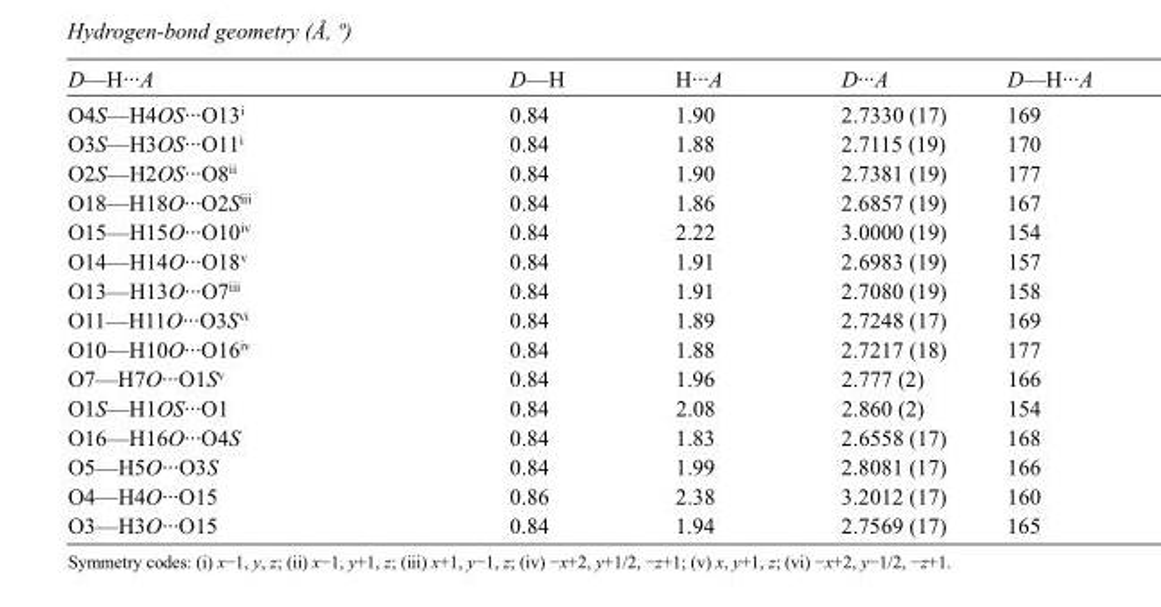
<table><tbody><tr><td>D—H···A</td><td>D—H</td><td>H···A</td><td>D···A</td><td>D—H···A</td></tr><tr><td>O4S—H4OS···O13<sup>i</sup></td><td>0.84</td><td>1.90</td><td>2.7330 (17)</td><td>169</td></tr><tr><td>O3S—H3OS···O11<sup>i</sup></td><td>0.84</td><td>1.88</td><td>2.7115 (19)</td><td>170</td></tr><tr><td>O2S—H2OS···O8<sup>ii</sup></td><td>0.84</td><td>1.90</td><td>2.7381 (19)</td><td>177</td></tr><tr><td>O18—H18O···O2S<sup>iii</sup></td><td>0.84</td><td>1.86</td><td>2.6857 (19)</td><td>167</td></tr><tr><td>O15—H15O···O10<sup>iv</sup></td><td>0.84</td><td>2.22</td><td>3.0000 (19)</td><td>154</td></tr><tr><td>O14—H14O···O18<sup>v</sup></td><td>0.84</td><td>1.91</td><td>2.6983 (19)</td><td>157</td></tr><tr><td>O13—H13O···O7<sup>iii</sup></td><td>0.84</td><td>1.91</td><td>2.7080 (19)</td><td>158</td></tr><tr><td>O11—H11O···O3S<sup>vi</sup></td><td>0.84</td><td>1.89</td><td>2.7248 (17)</td><td>169</td></tr><tr><td>O10—H10O···O16<sup>iv</sup></td><td>0.84</td><td>1.88</td><td>2.7217 (18)</td><td>177</td></tr><tr><td>O7—H7O···O1S<sup>v</sup></td><td>0.84</td><td>1.96</td><td>2.777 (2)</td><td>166</td></tr><tr><td>O1S—H1OS···O1</td><td>0.84</td><td>2.08</td><td>2.860 (2)</td><td>154</td></tr><tr><td>O16—H16O···O4S</td><td>0.84</td><td>1.83</td><td>2.6558 (17)</td><td>168</td></tr><tr><td>O5—H5O···O3S</td><td>0.84</td><td>1.99</td><td>2.8081 (17)</td><td>166</td></tr><tr><td>O4—H4O···O15</td><td>0.86</td><td>2.38</td><td>3.2012 (17)</td><td>160</td></tr><tr><td>O3—H3O···O15</td><td>0.84</td><td>1.94</td><td>2.7569 (17)</td><td>165</td></tr></tbody></table>